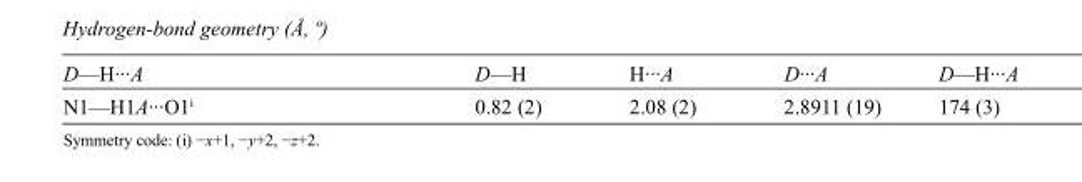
<table><tbody><tr><td>D—H···A</td><td>D—H</td><td>H···A</td><td>D···A</td><td>D—H···A</td></tr><tr><td>N1—H1A···O1<sup>i</sup></td><td>0.82 (2)</td><td>2.08 (2)</td><td>2.8911 (19)</td><td>174 (3)</td></tr></tbody></table>